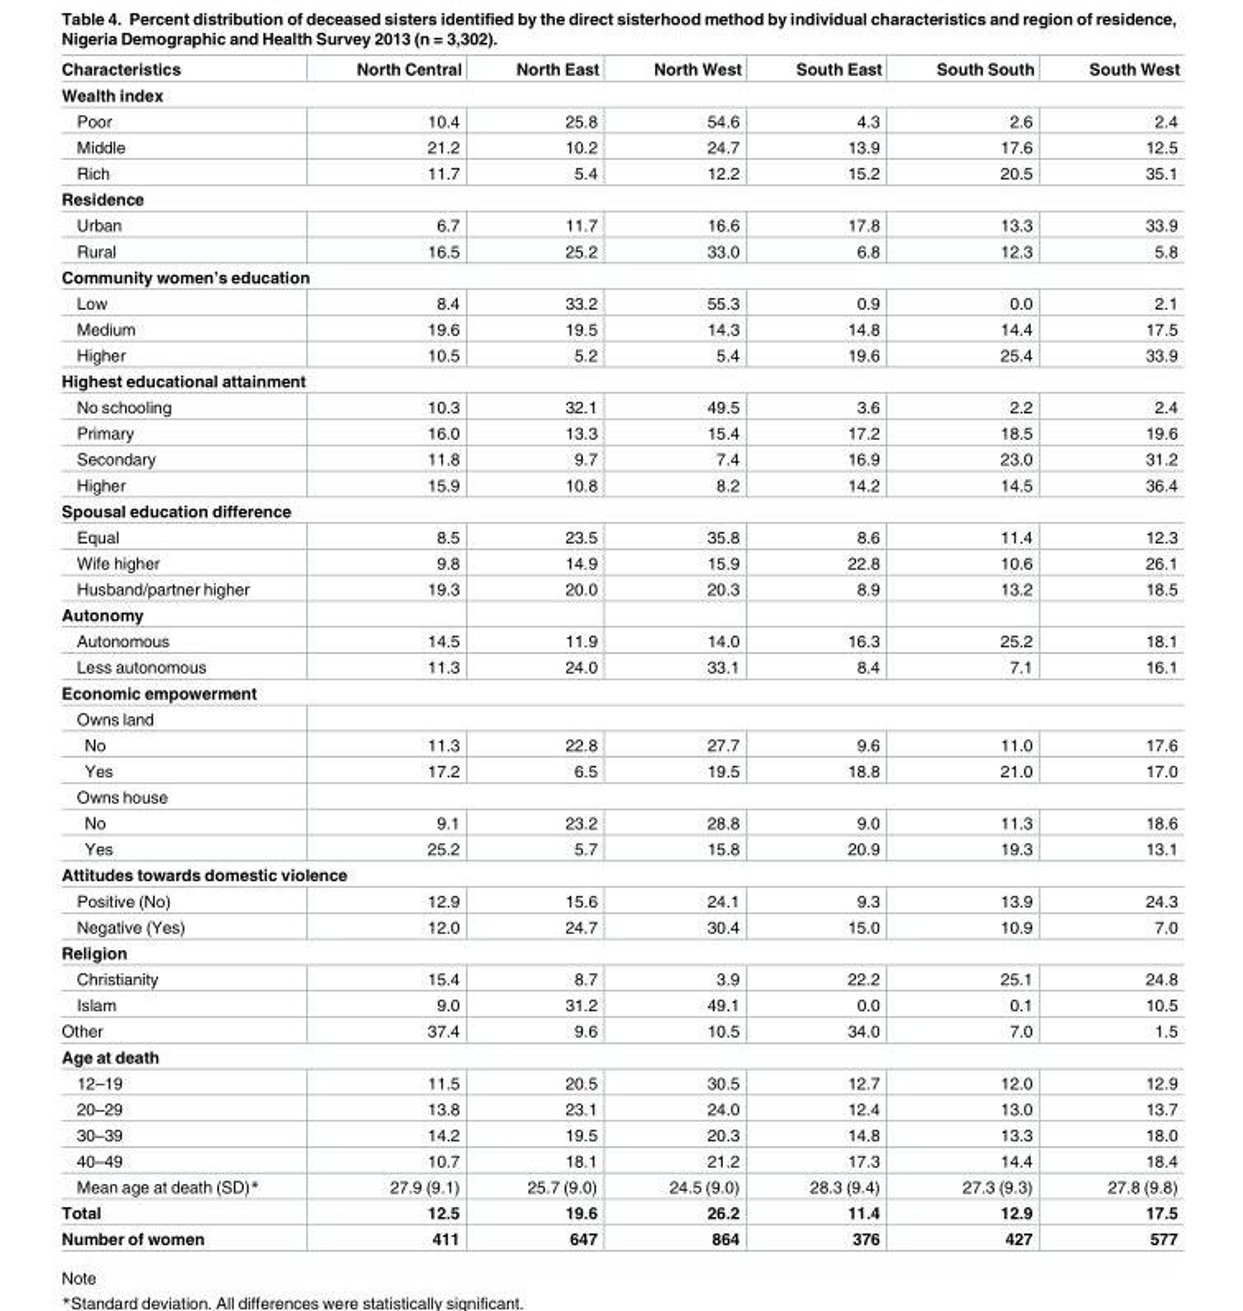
<table><thead><tr><td>Characteristics</td><td>North Central</td><td>North East</td><td>North West</td><td>South East</td><td>South South</td><td>South West</td></tr></thead><tbody><tr><td colspan="7">Wealth index</td></tr><tr><td>Poor</td><td>10.4</td><td>25.8</td><td>54.6</td><td>4.3</td><td>2.6</td><td>2.4</td></tr><tr><td>Middle</td><td>21.2</td><td>10.2</td><td>24.7</td><td>13.9</td><td>17.6</td><td>12.5</td></tr><tr><td>Rich</td><td>11.7</td><td>5.4</td><td>12.2</td><td>15.2</td><td>20.5</td><td>35.1</td></tr><tr><td colspan="7">Residence</td></tr><tr><td>Urban</td><td>6.7</td><td>11.7</td><td>16.6</td><td>17.8</td><td>13.3</td><td>33.9</td></tr><tr><td>Rural</td><td>16.5</td><td>25.2</td><td>33.0</td><td>6.8</td><td>12.3</td><td>5.8</td></tr><tr><td colspan="7">Community women’s education</td></tr><tr><td>Low</td><td>8.4</td><td>33.2</td><td>55.3</td><td>0.9</td><td>0.0</td><td>2.1</td></tr><tr><td>Medium</td><td>19.6</td><td>19.5</td><td>14.3</td><td>14.8</td><td>14.4</td><td>17.5</td></tr><tr><td>Higher</td><td>10.5</td><td>5.2</td><td>5.4</td><td>19.6</td><td>25.4</td><td>33.9</td></tr><tr><td colspan="7">Highest educational attainment</td></tr><tr><td>No schooling</td><td>10.3</td><td>32.1</td><td>49.5</td><td>3.6</td><td>2.2</td><td>2.4</td></tr><tr><td>Primary</td><td>16.0</td><td>13.3</td><td>15.4</td><td>17.2</td><td>18.5</td><td>19.6</td></tr><tr><td>Secondary</td><td>11.8</td><td>9.7</td><td>7.4</td><td>16.9</td><td>23.0</td><td>31.2</td></tr><tr><td>Higher</td><td>15.9</td><td>10.8</td><td>8.2</td><td>14.2</td><td>14.5</td><td>36.4</td></tr><tr><td colspan="7">Spousal education difference</td></tr><tr><td>Equal</td><td>8.5</td><td>23.5</td><td>35.8</td><td>8.6</td><td>11.4</td><td>12.3</td></tr><tr><td>Wife higher</td><td>9.8</td><td>14.9</td><td>15.9</td><td>22.8</td><td>10.6</td><td>26.1</td></tr><tr><td>Husband/partner higher</td><td>19.3</td><td>20.0</td><td>20.3</td><td>8.9</td><td>13.2</td><td>18.5</td></tr><tr><td colspan="7">Autonomy</td></tr><tr><td>Autonomous</td><td>14.5</td><td>11.9</td><td>14.0</td><td>16.3</td><td>25.2</td><td>18.1</td></tr><tr><td>Less autonomous</td><td>11.3</td><td>24.0</td><td>33.1</td><td>8.4</td><td>7.1</td><td>16.1</td></tr><tr><td colspan="7">Economic empowerment</td></tr><tr><td colspan="7">Owns land</td></tr><tr><td>No</td><td>11.3</td><td>22.8</td><td>27.7</td><td>9.6</td><td>11.0</td><td>17.6</td></tr><tr><td>Yes</td><td>17.2</td><td>6.5</td><td>19.5</td><td>18.8</td><td>21.0</td><td>17.0</td></tr><tr><td colspan="7">Owns house</td></tr><tr><td>No</td><td>9.1</td><td>23.2</td><td>28.8</td><td>9.0</td><td>11.3</td><td>18.6</td></tr><tr><td>Yes</td><td>25.2</td><td>5.7</td><td>15.8</td><td>20.9</td><td>19.3</td><td>13.1</td></tr><tr><td colspan="7">Attitudes towards domestic violence</td></tr><tr><td>Positive (No)</td><td>12.9</td><td>15.6</td><td>24.1</td><td>9.3</td><td>13.9</td><td>24.3</td></tr><tr><td>Negative (Yes)</td><td>12.0</td><td>24.7</td><td>30.4</td><td>15.0</td><td>10.9</td><td>7.0</td></tr><tr><td colspan="7">Religion</td></tr><tr><td>Christianity</td><td>15.4</td><td>8.7</td><td>3.9</td><td>22.2</td><td>25.1</td><td>24.8</td></tr><tr><td>Islam</td><td>9.0</td><td>31.2</td><td>49.1</td><td>0.0</td><td>0.1</td><td>10.5</td></tr><tr><td>Other</td><td>37.4</td><td>9.6</td><td>10.5</td><td>34.0</td><td>7.0</td><td>1.5</td></tr><tr><td colspan="7">Age at death</td></tr><tr><td>12–19</td><td>11.5</td><td>20.5</td><td>30.5</td><td>12.7</td><td>12.0</td><td>12.9</td></tr><tr><td>20–29</td><td>13.8</td><td>23.1</td><td>24.0</td><td>12.4</td><td>13.0</td><td>13.7</td></tr><tr><td>30–39</td><td>14.2</td><td>19.5</td><td>20.3</td><td>14.8</td><td>13.3</td><td>18.0</td></tr><tr><td>40–49</td><td>10.7</td><td>18.1</td><td>21.2</td><td>17.3</td><td>14.4</td><td>18.4</td></tr><tr><td>Mean age at death (SD)*</td><td>27.9 (9.1)</td><td>25.7 (9.0)</td><td>24.5 (9.0)</td><td>28.3 (9.4)</td><td>27.3 (9.3)</td><td>27.8 (9.8)</td></tr><tr><td>Total</td><td>12.5</td><td>19.6</td><td>26.2</td><td>11.4</td><td>12.9</td><td>17.5</td></tr><tr><td>Number of women</td><td>411</td><td>647</td><td>864</td><td>376</td><td>427</td><td>577</td></tr></tbody></table>